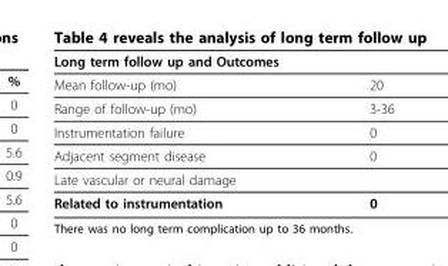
<table><thead><tr><td>Long term follow up and Outcomes</td><td></td></tr></thead><tbody><tr><td>Mean follow-up (mo)</td><td>20</td></tr><tr><td>Range of follow-up (mo)</td><td>3-36</td></tr><tr><td>Instrumentation failure</td><td>0</td></tr><tr><td>Adjacent segment disease</td><td>0</td></tr><tr><td colspan="2">Late vascular or neural damage</td></tr><tr><td>Related to instrumentation</td><td>0</td></tr></tbody></table>